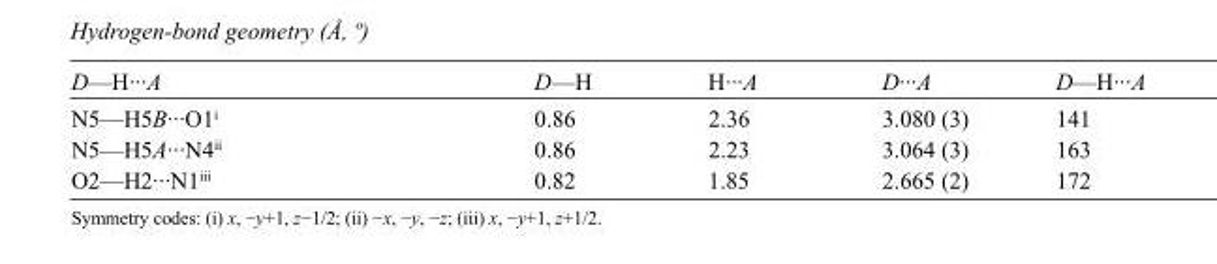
<table><tbody><tr><td>D—H···A</td><td>D—H</td><td>H···A</td><td>D···A</td><td>D—H···A</td></tr><tr><td>N5—H5B···O1<sup>i</sup></td><td>0.86</td><td>2.36</td><td>3.080 (3)</td><td>141</td></tr><tr><td>N5—H5A···N4<sup>ii</sup></td><td>0.86</td><td>2.23</td><td>3.064 (3)</td><td>163</td></tr><tr><td>O2—H2···N1<sup>iii</sup></td><td>0.82</td><td>1.85</td><td>2.665 (2)</td><td>172</td></tr></tbody></table>